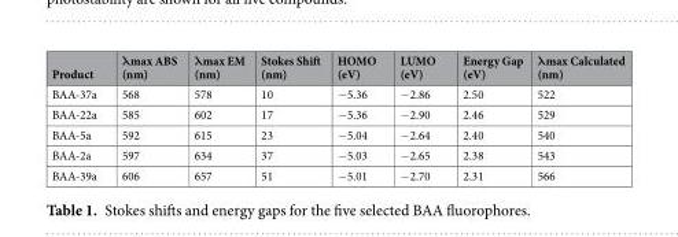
<table><thead><tr><td>Product</td><td>λmax ABS (nm)</td><td>λmax EM (nm)</td><td>Stokes Shift (nm)</td><td>HOMO (eV)</td><td>LUMO (eV)</td><td>Energy Gap (eV)</td><td>λmax Calculated (nm)</td></tr></thead><tbody><tr><td>BAA-37a</td><td>568</td><td>578</td><td>10</td><td>−5.36</td><td>−2.86</td><td>2.50</td><td>522</td></tr><tr><td>BAA-22a</td><td>585</td><td>602</td><td>17</td><td>−5.36</td><td>−2.90</td><td>2.46</td><td>529</td></tr><tr><td>BAA-5a</td><td>592</td><td>615</td><td>23</td><td>−5.04</td><td>−2.64</td><td>2.40</td><td>540</td></tr><tr><td>BAA-2a</td><td>597</td><td>634</td><td>37</td><td>−5.03</td><td>−2.65</td><td>2.38</td><td>543</td></tr><tr><td>BAA-39a</td><td>606</td><td>657</td><td>51</td><td>−5.01</td><td>−2.70</td><td>2.31</td><td>566</td></tr></tbody></table>